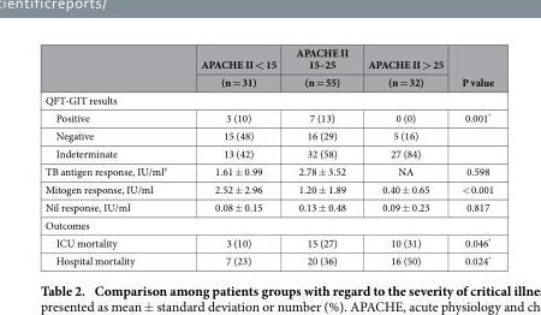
<table><thead><tr><td rowspan="2"></td><td rowspan="2">APACHE II &lt; 15 (n = 31)</td><td rowspan="2">APACHE II 15–25 (n = 55)</td><td rowspan="2">APACHE II &gt; 25 (n = 32)</td><td rowspan="2">P value</td></tr><tr></tr></thead><tbody><tr><td colspan="5">QFT-GIT results</td></tr><tr><td>Positive</td><td>3 (10)</td><td>7 (13)</td><td>0 (0)</td><td>0.001*</td></tr><tr><td>Negative</td><td>15 (48)</td><td>16 (29)</td><td>5 (16)</td><td></td></tr><tr><td>Indeterminate</td><td>13 (42)</td><td>32 (58)</td><td>27 (84)</td><td></td></tr><tr><td>TB antigen response, IU/ml†</td><td>1.61 ± 0.99</td><td>2.78 ± 3.52</td><td>NA</td><td>0.598</td></tr><tr><td>Mitogen response, IU/ml</td><td>2.52 ± 2.96</td><td>1.20 ± 1.89</td><td>0.40 ± 0.65</td><td>&lt; 0.001</td></tr><tr><td>Nil response, IU/ml</td><td>0.08 ± 0.15</td><td>0.13 ± 0.48</td><td>0.09 ± 0.23</td><td>0.817</td></tr><tr><td colspan="5">Outcomes</td></tr><tr><td>ICU mortality</td><td>3 (10)</td><td>15 (27)</td><td>10 (31)</td><td>0.046*</td></tr><tr><td>Hospital mortality</td><td>7 (23)</td><td>20 (36)</td><td>16 (50)</td><td>0.024*</td></tr></tbody></table>